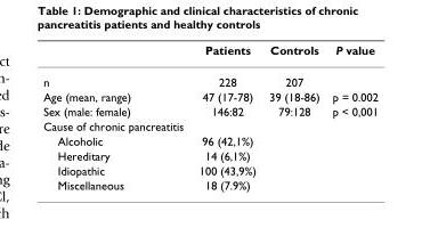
<table><thead><tr><td></td><td>Patients</td><td>Controls</td><td>P value</td></tr></thead><tbody><tr><td>n</td><td>228</td><td>207</td><td></td></tr><tr><td>Age (mean, range)</td><td>47 (17-78)</td><td>39 (18-86)</td><td>p = 0.002</td></tr><tr><td>Sex (male: female)</td><td>146:82</td><td>79:128</td><td>p &lt; 0,001</td></tr><tr><td colspan="4">Cause of chronic pancreatitis</td></tr><tr><td>Alcoholic</td><td>96 (42,1%)</td><td></td><td></td></tr><tr><td>Hereditary</td><td>14 (6,1%)</td><td></td><td></td></tr><tr><td>Idiopathic</td><td>100 (43,9%)</td><td></td><td></td></tr><tr><td>Miscellaneous</td><td>18 (7.9%)</td><td></td><td></td></tr></tbody></table>